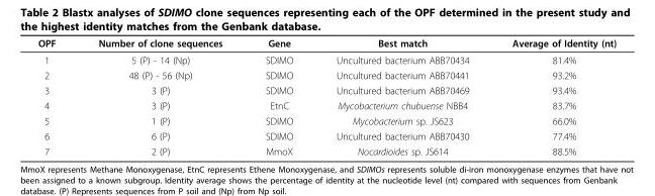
<table><thead><tr><td>OPF</td><td>Number of clone sequences</td><td>Gene</td><td>Best match</td><td>Average of Identity (nt)</td></tr></thead><tbody><tr><td>1</td><td>5 (P) - 14 (Np)</td><td>SDIMO</td><td>Uncultured bacterium ABB70434</td><td>81.4%</td></tr><tr><td>2</td><td>48 (P) - 56 (Np)</td><td>SDIMO</td><td>Uncultured bacterium ABB70441</td><td>93.2%</td></tr><tr><td>3</td><td>3 (P)</td><td>SDIMO</td><td>Uncultured bacterium ABB70469</td><td>93.4%</td></tr><tr><td>4</td><td>3 (P)</td><td>EtnC</td><td>Mycobacterium chubuense NBB4</td><td>83.7%</td></tr><tr><td>5</td><td>1 (P)</td><td>SDIMO</td><td>Mycobacterium sp. JS623</td><td>66.0%</td></tr><tr><td>6</td><td>6 (P)</td><td>SDIMO</td><td>Uncultured bacterium ABB70430</td><td>77.4%</td></tr><tr><td>7</td><td>2 (P)</td><td>MmoX</td><td>Nocardioides sp. JS614</td><td>88.5%</td></tr></tbody></table>